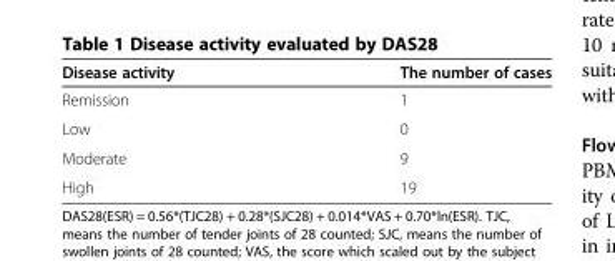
<table><thead><tr><td>Disease activity</td><td>The number of cases</td></tr></thead><tbody><tr><td>Remission</td><td>1</td></tr><tr><td>Low</td><td>0</td></tr><tr><td>Moderate</td><td>9</td></tr><tr><td>High</td><td>19</td></tr></tbody></table>